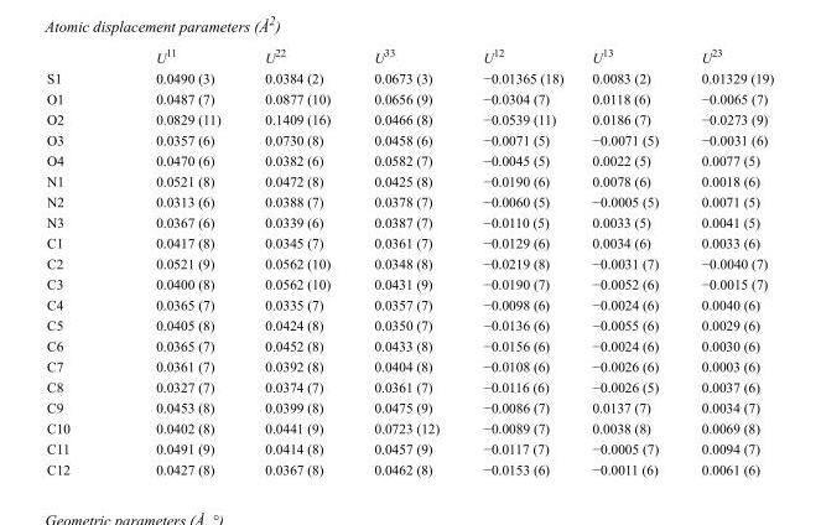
<table><thead><tr><td></td><td>U<sup>11</sup></td><td>U<sup>22</sup></td><td>U<sup>33</sup></td><td>U<sup>12</sup></td><td>U<sup>13</sup></td><td>U<sup>23</sup></td></tr></thead><tbody><tr><td>S1</td><td>0.0490 (3)</td><td>0.0384 (2)</td><td>0.0673 (3)</td><td>−0.01365 (18)</td><td>0.0083 (2)</td><td>0.01329 (19)</td></tr><tr><td>O1</td><td>0.0487 (7)</td><td>0.0877 (10)</td><td>0.0656 (9)</td><td>−0.0304 (7)</td><td>0.0118 (6)</td><td>−0.0065 (7)</td></tr><tr><td>O2</td><td>0.0829 (11)</td><td>0.1409 (16)</td><td>0.0466 (8)</td><td>−0.0539 (11)</td><td>0.0186 (7)</td><td>−0.0273 (9)</td></tr><tr><td>O3</td><td>0.0357 (6)</td><td>0.0730 (8)</td><td>0.0458 (6)</td><td>−0.0071 (5)</td><td>−0.0071 (5)</td><td>−0.0031 (6)</td></tr><tr><td>O4</td><td>0.0470 (6)</td><td>0.0382 (6)</td><td>0.0582 (7)</td><td>−0.0045 (5)</td><td>0.0022 (5)</td><td>0.0077 (5)</td></tr><tr><td>N1</td><td>0.0521 (8)</td><td>0.0472 (8)</td><td>0.0425 (8)</td><td>−0.0190 (6)</td><td>0.0078 (6)</td><td>0.0018 (6)</td></tr><tr><td>N2</td><td>0.0313 (6)</td><td>0.0388 (7)</td><td>0.0378 (7)</td><td>−0.0060 (5)</td><td>−0.0005 (5)</td><td>0.0071 (5)</td></tr><tr><td>N3</td><td>0.0367 (6)</td><td>0.0339 (6)</td><td>0.0387 (7)</td><td>−0.0110 (5)</td><td>0.0033 (5)</td><td>0.0041 (5)</td></tr><tr><td>C1</td><td>0.0417 (8)</td><td>0.0345 (7)</td><td>0.0361 (7)</td><td>−0.0129 (6)</td><td>0.0034 (6)</td><td>0.0033 (6)</td></tr><tr><td>C2</td><td>0.0521 (9)</td><td>0.0562 (10)</td><td>0.0348 (8)</td><td>−0.0219 (8)</td><td>−0.0031 (7)</td><td>−0.0040 (7)</td></tr><tr><td>C3</td><td>0.0400 (8)</td><td>0.0562 (10)</td><td>0.0431 (9)</td><td>−0.0190 (7)</td><td>−0.0052 (6)</td><td>−0.0015 (7)</td></tr><tr><td>C4</td><td>0.0365 (7)</td><td>0.0335 (7)</td><td>0.0357 (7)</td><td>−0.0098 (6)</td><td>−0.0024 (6)</td><td>0.0040 (6)</td></tr><tr><td>C5</td><td>0.0405 (8)</td><td>0.0424 (8)</td><td>0.0350 (7)</td><td>−0.0136 (6)</td><td>−0.0055 (6)</td><td>0.0029 (6)</td></tr><tr><td>C6</td><td>0.0365 (7)</td><td>0.0452 (8)</td><td>0.0433 (8)</td><td>−0.0156 (6)</td><td>−0.0024 (6)</td><td>0.0030 (6)</td></tr><tr><td>C7</td><td>0.0361 (7)</td><td>0.0392 (8)</td><td>0.0404 (8)</td><td>−0.0108 (6)</td><td>−0.0026 (6)</td><td>0.0003 (6)</td></tr><tr><td>C8</td><td>0.0327 (7)</td><td>0.0374 (7)</td><td>0.0361 (7)</td><td>−0.0116 (6)</td><td>−0.0026 (5)</td><td>0.0037 (6)</td></tr><tr><td>C9</td><td>0.0453 (8)</td><td>0.0399 (8)</td><td>0.0475 (9)</td><td>−0.0086 (7)</td><td>0.0137 (7)</td><td>0.0034 (7)</td></tr><tr><td>C10</td><td>0.0402 (8)</td><td>0.0441 (9)</td><td>0.0723 (12)</td><td>−0.0089 (7)</td><td>0.0038 (8)</td><td>0.0069 (8)</td></tr><tr><td>C11</td><td>0.0491 (9)</td><td>0.0414 (8)</td><td>0.0457 (9)</td><td>−0.0117 (7)</td><td>−0.0005 (7)</td><td>0.0094 (7)</td></tr><tr><td>C12</td><td>0.0427 (8)</td><td>0.0367 (8)</td><td>0.0462 (8)</td><td>−0.0153 (6)</td><td>−0.0011 (6)</td><td>0.0061 (6)</td></tr></tbody></table>